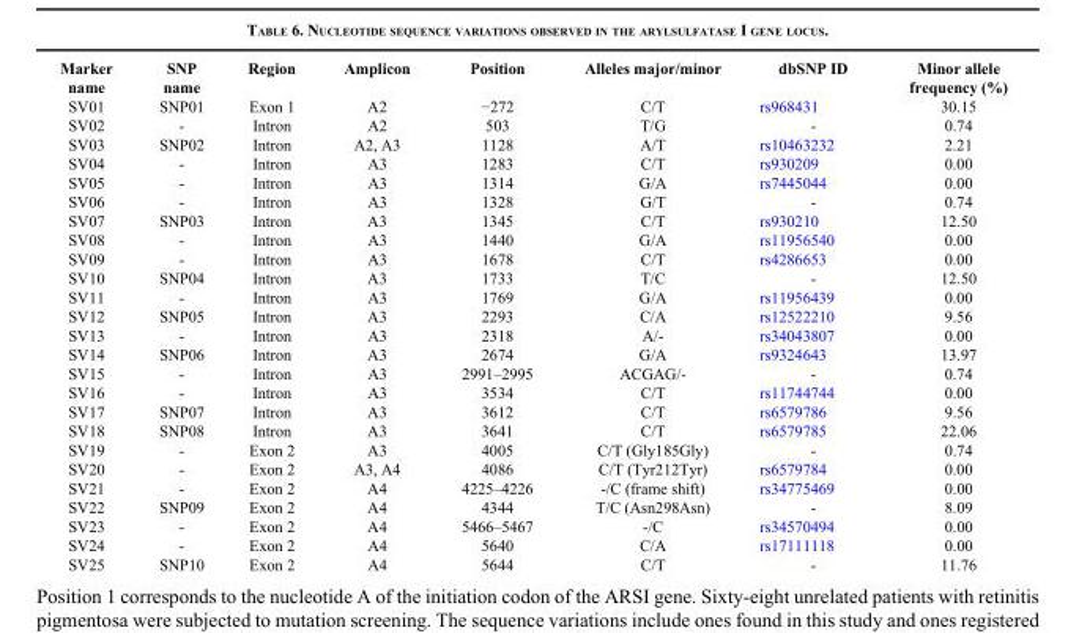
<table><thead><tr><td>Marker name</td><td>SNP name</td><td>Region</td><td>Amplicon</td><td>Position</td><td>Alleles major/minor</td><td>dbSNP ID</td><td>Minor allele frequency (%)</td></tr></thead><tbody><tr><td>SV01</td><td>SNP01</td><td>Exon 1</td><td>A2</td><td>−272</td><td>C/T</td><td>rs968431</td><td>30.15</td></tr><tr><td>SV02</td><td>-</td><td>Intron</td><td>A2</td><td>503</td><td>T/G</td><td>-</td><td>0.74</td></tr><tr><td>SV03</td><td>SNP02</td><td>Intron</td><td>A2, A3</td><td>1128</td><td>A/T</td><td>rs10463232</td><td>2.21</td></tr><tr><td>SV04</td><td>-</td><td>Intron</td><td>A3</td><td>1283</td><td>C/T</td><td>rs930209</td><td>0.00</td></tr><tr><td>SV05</td><td>-</td><td>Intron</td><td>A3</td><td>1314</td><td>G/A</td><td>rs7445044</td><td>0.00</td></tr><tr><td>SV06</td><td>-</td><td>Intron</td><td>A3</td><td>1328</td><td>G/T</td><td>-</td><td>0.74</td></tr><tr><td>SV07</td><td>SNP03</td><td>Intron</td><td>A3</td><td>1345</td><td>C/T</td><td>rs930210</td><td>12.50</td></tr><tr><td>SV08</td><td>-</td><td>Intron</td><td>A3</td><td>1440</td><td>G/A</td><td>rs11956540</td><td>0.00</td></tr><tr><td>SV09</td><td>-</td><td>Intron</td><td>A3</td><td>1678</td><td>C/T</td><td>rs4286653</td><td>0.00</td></tr><tr><td>SV10</td><td>SNP04</td><td>Intron</td><td>A3</td><td>1733</td><td>T/C</td><td>-</td><td>12.50</td></tr><tr><td>SV11</td><td>-</td><td>Intron</td><td>A3</td><td>1769</td><td>G/A</td><td>rs11956439</td><td>0.00</td></tr><tr><td>SV12</td><td>SNP05</td><td>Intron</td><td>A3</td><td>2293</td><td>C/A</td><td>rs12522210</td><td>9.56</td></tr><tr><td>SV13</td><td>-</td><td>Intron</td><td>A3</td><td>2318</td><td>A/-</td><td>rs34043807</td><td>0.00</td></tr><tr><td>SV14</td><td>SNP06</td><td>Intron</td><td>A3</td><td>2674</td><td>G/A</td><td>rs9324643</td><td>13.97</td></tr><tr><td>SV15</td><td>-</td><td>Intron</td><td>A3</td><td>2991–2995</td><td>ACGAG/-</td><td>-</td><td>0.74</td></tr><tr><td>SV16</td><td>-</td><td>Intron</td><td>A3</td><td>3534</td><td>C/T</td><td>rs11744744</td><td>0.00</td></tr><tr><td>SV17</td><td>SNP07</td><td>Intron</td><td>A3</td><td>3612</td><td>C/T</td><td>rs6579786</td><td>9.56</td></tr><tr><td>SV18</td><td>SNP08</td><td>Intron</td><td>A3</td><td>3641</td><td>C/T</td><td>rs6579785</td><td>22.06</td></tr><tr><td>SV19</td><td>-</td><td>Exon 2</td><td>A3</td><td>4005</td><td>C/T (Gly185Gly)</td><td>-</td><td>0.74</td></tr><tr><td>SV20</td><td>-</td><td>Exon 2</td><td>A3, A4</td><td>4086</td><td>C/T (Tyr212Tyr)</td><td>rs6579784</td><td>0.00</td></tr><tr><td>SV21</td><td>-</td><td>Exon 2</td><td>A4</td><td>4225–4226</td><td>-/C (frame shift)</td><td>rs34775469</td><td>0.00</td></tr><tr><td>SV22</td><td>SNP09</td><td>Exon 2</td><td>A4</td><td>4344</td><td>T/C (Asn298Asn)</td><td>-</td><td>8.09</td></tr><tr><td>SV23</td><td>-</td><td>Exon 2</td><td>A4</td><td>5466–5467</td><td>-/C</td><td>rs34570494</td><td>0.00</td></tr><tr><td>SV24</td><td>-</td><td>Exon 2</td><td>A4</td><td>5640</td><td>C/A</td><td>rs17111118</td><td>0.00</td></tr><tr><td>SV25</td><td>SNP10</td><td>Exon 2</td><td>A4</td><td>5644</td><td>C/T</td><td>-</td><td>11.76</td></tr></tbody></table>